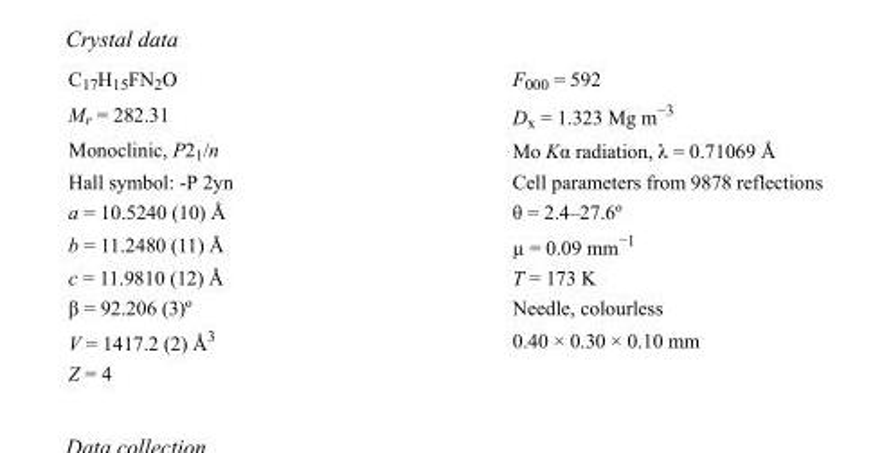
<table><tbody><tr><td>C<sub>17</sub>H<sub>15</sub>FN<sub>2</sub>O</td><td>F000 = 592</td></tr><tr><td>M<sub>r</sub> = 282.31</td><td>D<sub>x</sub> = 1.323 Mg m<sup>−3</sup></td></tr><tr><td>Monoclinic, P2<sub>1</sub>/n</td><td>Mo Kα radiation, λ = 0.71069 Å</td></tr><tr><td>Hall symbol: -P 2yn</td><td>Cell parameters from 9878 reflections</td></tr><tr><td>a = 10.5240 (10) Å</td><td>θ = 2.4–27.6º</td></tr><tr><td>b = 11.2480 (11) Å</td><td>µ = 0.09 mm<sup>−1</sup></td></tr><tr><td>c = 11.9810 (12) Å</td><td>T = 173 K</td></tr><tr><td>β = 92.206 (3)º</td><td>Needle, colourless</td></tr><tr><td>V = 1417.2 (2) Å<sup>3</sup></td><td>0.40 × 0.30 × 0.10 mm</td></tr><tr><td>Z = 4</td><td></td></tr></tbody></table>